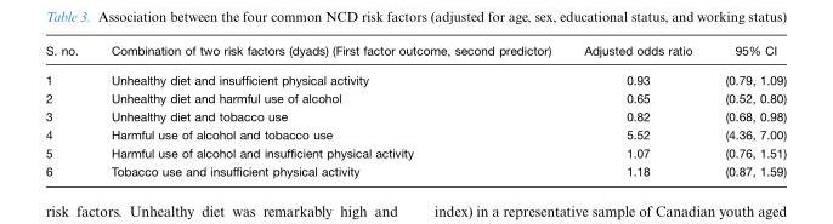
<table><thead><tr><td>S. no.</td><td>Combination of two risk factors (dyads) (First factor outcome, second predictor)</td><td>Adjusted odds ratio</td><td>95% CI</td></tr></thead><tbody><tr><td>1</td><td>Unhealthy diet and insufficient physical activity</td><td>0.93</td><td>(0.79, 1.09)</td></tr><tr><td>2</td><td>Unhealthy diet and harmful use of alcohol</td><td>0.65</td><td>(0.52, 0.80)</td></tr><tr><td>3</td><td>Unhealthy diet and tobacco use</td><td>0.82</td><td>(0.68, 0.98)</td></tr><tr><td>4</td><td>Harmful use of alcohol and tobacco use</td><td>5.52</td><td>(4.36, 7.00)</td></tr><tr><td>5</td><td>Harmful use of alcohol and insufficient physical activity</td><td>1.07</td><td>(0.76, 1.51)</td></tr><tr><td>6</td><td>Tobacco use and insufficient physical activity</td><td>1.18</td><td>(0.87, 1.59)</td></tr></tbody></table>